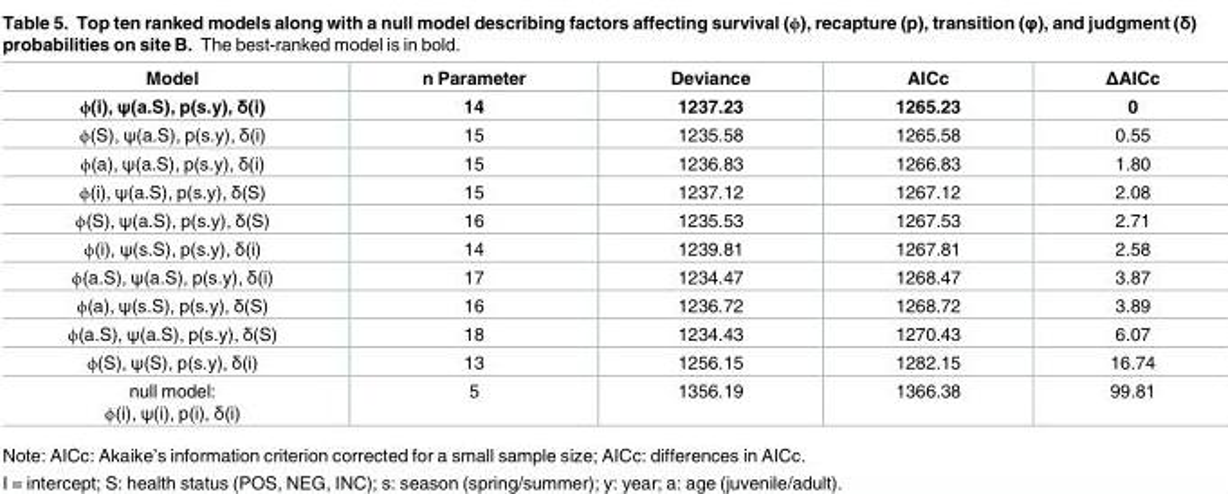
<table><thead><tr><td>Model</td><td>n Parameter</td><td>Deviance</td><td>AICc</td><td>ΔAICc</td></tr></thead><tbody><tr><td>ϕ(i), ψ(a.S), p(s.y), δ(i)</td><td>14</td><td>1237.23</td><td>1265.23</td><td>0</td></tr><tr><td>ϕ(S), ψ(a.S), p(s.y), δ(i)</td><td>15</td><td>1235.58</td><td>1265.58</td><td>0.55</td></tr><tr><td>ϕ(a), ψ(a.S), p(s.y), δ(i)</td><td>15</td><td>1236.83</td><td>1266.83</td><td>1.80</td></tr><tr><td>ϕ(i), ψ(a.S), p(s.y), δ(S)</td><td>15</td><td>1237.12</td><td>1267.12</td><td>2.08</td></tr><tr><td>ϕ(S), ψ(a.S), p(s.y), δ(S)</td><td>16</td><td>1235.53</td><td>1267.53</td><td>2.71</td></tr><tr><td>ϕ(i), ψ(s.S), p(s.y), δ(i)</td><td>14</td><td>1239.81</td><td>1267.81</td><td>2.58</td></tr><tr><td>ϕ(a.S), ψ(a.S), p(s.y), δ(i)</td><td>17</td><td>1234.47</td><td>1268.47</td><td>3.87</td></tr><tr><td>ϕ(a), ψ(s.S), p(s.y), δ(S)</td><td>16</td><td>1236.72</td><td>1268.72</td><td>3.89</td></tr><tr><td>ϕ(a.S), ψ(a.S), p(s.y), δ(S)</td><td>18</td><td>1234.43</td><td>1270.43</td><td>6.07</td></tr><tr><td>ϕ(S), ψ(S), p(s.y), δ(i)</td><td>13</td><td>1256.15</td><td>1282.15</td><td>16.74</td></tr><tr><td>null model: ϕ(i), ψ(i), p(i), δ(i)</td><td>5</td><td>1356.19</td><td>1366.38</td><td>99.81</td></tr></tbody></table>